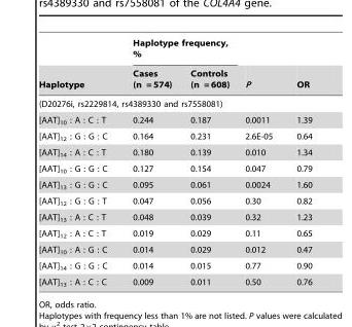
<table><thead><tr><td rowspan="2">Haplotype</td><td colspan="2">Haplotype frequency, %</td><td rowspan="2">P</td><td rowspan="2">OR</td></tr><tr><td>Cases (n = 574)</td><td>Controls (n = 608)</td></tr></thead><tbody><tr><td colspan="5">(D20276i, rs2229814, rs4389330 and rs7558081)</td></tr><tr><td>[AAT]<sub>10</sub> : A : C : T</td><td>0.244</td><td>0.187</td><td>0.0011</td><td>1.39</td></tr><tr><td>[AAT]<sub>12</sub> : G : G : C</td><td>0.164</td><td>0.231</td><td>2.6E-05</td><td>0.64</td></tr><tr><td>[AAT]<sub>14</sub> : A : C : T</td><td>0.180</td><td>0.139</td><td>0.010</td><td>1.34</td></tr><tr><td>[AAT]<sub>10</sub> : G : G : C</td><td>0.127</td><td>0.154</td><td>0.047</td><td>0.79</td></tr><tr><td>[AAT]<sub>13</sub> : G : G : C</td><td>0.095</td><td>0.061</td><td>0.0024</td><td>1.60</td></tr><tr><td>[AAT]<sub>12</sub> : G : G : T</td><td>0.047</td><td>0.056</td><td>0.30</td><td>0.82</td></tr><tr><td>[AAT]<sub>13</sub> : A : C : T</td><td>0.048</td><td>0.039</td><td>0.32</td><td>1.23</td></tr><tr><td>[AAT]<sub>12</sub> : A : C : T</td><td>0.019</td><td>0.029</td><td>0.11</td><td>0.65</td></tr><tr><td>[AAT]<sub>10</sub> : A : G : C</td><td>0.014</td><td>0.029</td><td>0.012</td><td>0.47</td></tr><tr><td>[AAT]<sub>14</sub> : G : G : C</td><td>0.014</td><td>0.015</td><td>0.77</td><td>0.90</td></tr><tr><td>[AAT]<sub>13</sub> : A : C : C</td><td>0.009</td><td>0.011</td><td>0.50</td><td>0.76</td></tr></tbody></table>